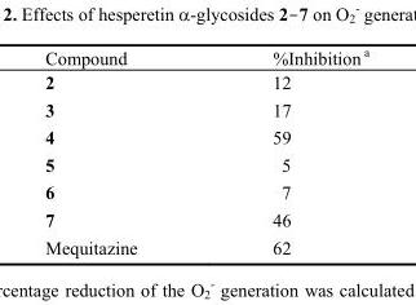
<table><thead><tr><td>Compound</td><td>%Inhibition <sup>a</sup></td></tr></thead><tbody><tr><td>2</td><td>12</td></tr><tr><td>3</td><td>17</td></tr><tr><td>4</td><td>59</td></tr><tr><td>5</td><td>5</td></tr><tr><td>6</td><td>7</td></tr><tr><td>7</td><td>46</td></tr><tr><td>Mequitazine</td><td>62</td></tr></tbody></table>